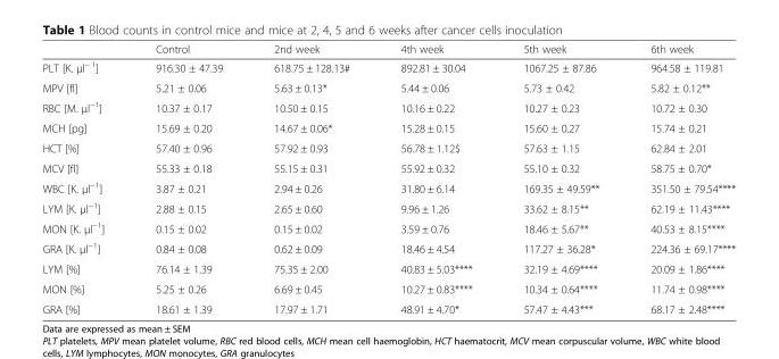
<table><thead><tr><td></td><td>Control</td><td>2nd week</td><td>4th week</td><td>5th week</td><td>6th week</td></tr></thead><tbody><tr><td>PLT [K. μl<sup>− 1</sup>]</td><td>916.30 ± 47.39</td><td>618.75 ± 128.13#</td><td>892.81 ± 30.04</td><td>1067.25 ± 87.86</td><td>964.58 ± 119.81</td></tr><tr><td>MPV [fl]</td><td>5.21 ± 0.06</td><td>5.63 ± 0.13*</td><td>5.44 ± 0.06</td><td>5.73 ± 0.42</td><td>5.82 ± 0.12**</td></tr><tr><td>RBC [M. μl<sup>−1</sup>]</td><td>10.37 ± 0.17</td><td>10.50 ± 0.15</td><td>10.16 ± 0.22</td><td>10.27 ± 0.23</td><td>10.72 ± 0.30</td></tr><tr><td>MCH [pg]</td><td>15.69 ± 0.20</td><td>14.67 ± 0.06*</td><td>15.28 ± 0.15</td><td>15.60 ± 0.27</td><td>15.74 ± 0.21</td></tr><tr><td>HCT [%]</td><td>57.40 ± 0.96</td><td>57.92 ± 0.93</td><td>56.78 ± 1.12$</td><td>57.63 ± 1.15</td><td>62.84 ± 2.01</td></tr><tr><td>MCV [fl]</td><td>55.33 ± 0.18</td><td>55.15 ± 0.31</td><td>55.92 ± 0.32</td><td>55.10 ± 0.32</td><td>58.75 ± 0.70*</td></tr><tr><td>WBC [K. μl<sup>−1</sup>]</td><td>3.87 ± 0.21</td><td>2.94 ± 0.26</td><td>31.80 ± 6.14</td><td>169.35 ± 49.59**</td><td>351.50 ± 79.54****</td></tr><tr><td>LYM [K. μl<sup>−1</sup>]</td><td>2.88 ± 0.15</td><td>2.65 ± 0.60</td><td>9.96 ± 1.26</td><td>33.62 ± 8.15**</td><td>62.19 ± 11.43****</td></tr><tr><td>MON [K. μl<sup>−1</sup>]</td><td>0.15 ± 0.02</td><td>0.15 ± 0.02</td><td>3.59 ± 0.76</td><td>18.46 ± 5.67**</td><td>40.53 ± 8.15****</td></tr><tr><td>GRA [K. μl<sup>−1</sup>]</td><td>0.84 ± 0.08</td><td>0.62 ± 0.09</td><td>18.46 ± 4.54</td><td>117.27 ± 36.28*</td><td>224.36 ± 69.17****</td></tr><tr><td>LYM [%]</td><td>76.14 ± 1.39</td><td>75.35 ± 2.00</td><td>40.83 ± 5.03****</td><td>32.19 ± 4.69****</td><td>20.09 ± 1.86****</td></tr><tr><td>MON [%]</td><td>5.25 ± 0.26</td><td>6.69 ± 0.45</td><td>10.27 ± 0.83****</td><td>10.34 ± 0.64****</td><td>11.74 ± 0.98****</td></tr><tr><td>GRA [%]</td><td>18.61 ± 1.39</td><td>17.97 ± 1.71</td><td>48.91 ± 4.70*</td><td>57.47 ± 4.43***</td><td>68.17 ± 2.48****</td></tr></tbody></table>